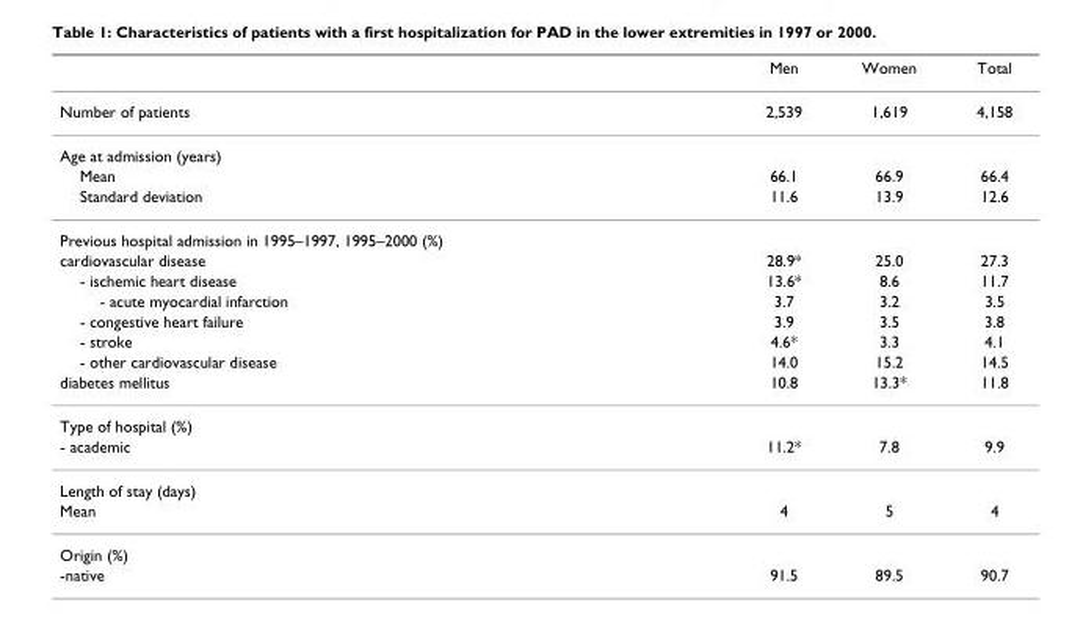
<table><thead><tr><td></td><td>Men</td><td>Women</td><td>Total</td></tr></thead><tbody><tr><td>Number of patients</td><td>2,539</td><td>1,619</td><td>4,158</td></tr><tr><td colspan="4">Age at admission (years)</td></tr><tr><td>Mean</td><td>66.1</td><td>66.9</td><td>66.4</td></tr><tr><td>Standard deviation</td><td>11.6</td><td>13.9</td><td>12.6</td></tr><tr><td colspan="4">Previous hospital admission in 1995–1997, 1995–2000 (%)</td></tr><tr><td>cardiovascular disease</td><td>28.9*</td><td>25.0</td><td>27.3</td></tr><tr><td>- ischemic heart disease</td><td>13.6*</td><td>8.6</td><td>11.7</td></tr><tr><td>- acute myocardial infarction</td><td>3.7</td><td>3.2</td><td>3.5</td></tr><tr><td>- congestive heart failure</td><td>3.9</td><td>3.5</td><td>3.8</td></tr><tr><td>- stroke</td><td>4.6*</td><td>3.3</td><td>4.1</td></tr><tr><td>- other cardiovascular disease</td><td>14.0</td><td>15.2</td><td>14.5</td></tr><tr><td>diabetes mellitus</td><td>10.8</td><td>13.3*</td><td>11.8</td></tr><tr><td colspan="4">Type of hospital (%)</td></tr><tr><td>- academic</td><td>11.2*</td><td>7.8</td><td>9.9</td></tr><tr><td colspan="4">Length of stay (days)</td></tr><tr><td>Mean</td><td>4</td><td>5</td><td>4</td></tr><tr><td colspan="4">Origin (%)</td></tr><tr><td>-native</td><td>91.5</td><td>89.5</td><td>90.7</td></tr></tbody></table>